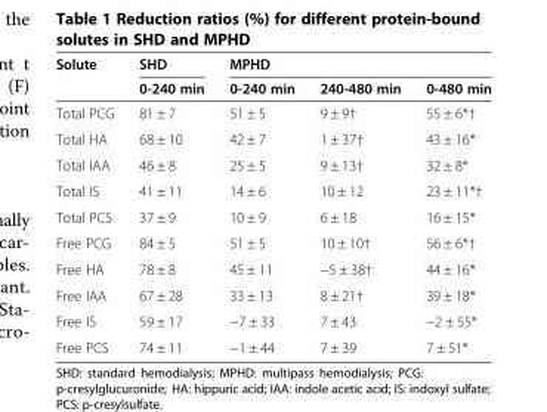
<table><thead><tr><td rowspan="2">Solute</td><td rowspan="2">SHD 0-240 min</td><td colspan="3">MPHD</td></tr><tr><td>0-240 min</td><td>240-480 min</td><td>0-480 min</td></tr></thead><tbody><tr><td>Total PCG</td><td>81 ± 7</td><td>51 ± 5</td><td>9 ± 9†</td><td>55 ± 6*†</td></tr><tr><td>Total HA</td><td>68 ± 10</td><td>42 ± 7</td><td>1 ± 37†</td><td>43 ± 16*</td></tr><tr><td>Total IAA</td><td>46 ± 8</td><td>25 ± 5</td><td>9 ± 13†</td><td>32 ± 8*</td></tr><tr><td>Total IS</td><td>41 ± 11</td><td>14 ± 6</td><td>10 ± 12</td><td>23 ± 11*†</td></tr><tr><td>Total PCS</td><td>37 ± 9</td><td>10 ± 9</td><td>6 ± 18</td><td>16 ± 15*</td></tr><tr><td>Free PCG</td><td>84 ± 5</td><td>51 ± 5</td><td>10 ± 10†</td><td>56 ± 6*†</td></tr><tr><td>Free HA</td><td>78 ± 8</td><td>45 ± 11</td><td>−5 ± 38†</td><td>44 ± 16*</td></tr><tr><td>Free IAA</td><td>67 ± 28</td><td>33 ± 13</td><td>8 ± 21†</td><td>39 ± 18*</td></tr><tr><td>Free IS</td><td>59 ± 17</td><td>−7 ± 33</td><td>7 ± 43</td><td>−2 ± 55*</td></tr><tr><td>Free PCS</td><td>74 ± 11</td><td>−1 ± 44</td><td>7 ± 39</td><td>7 ± 51*</td></tr></tbody></table>